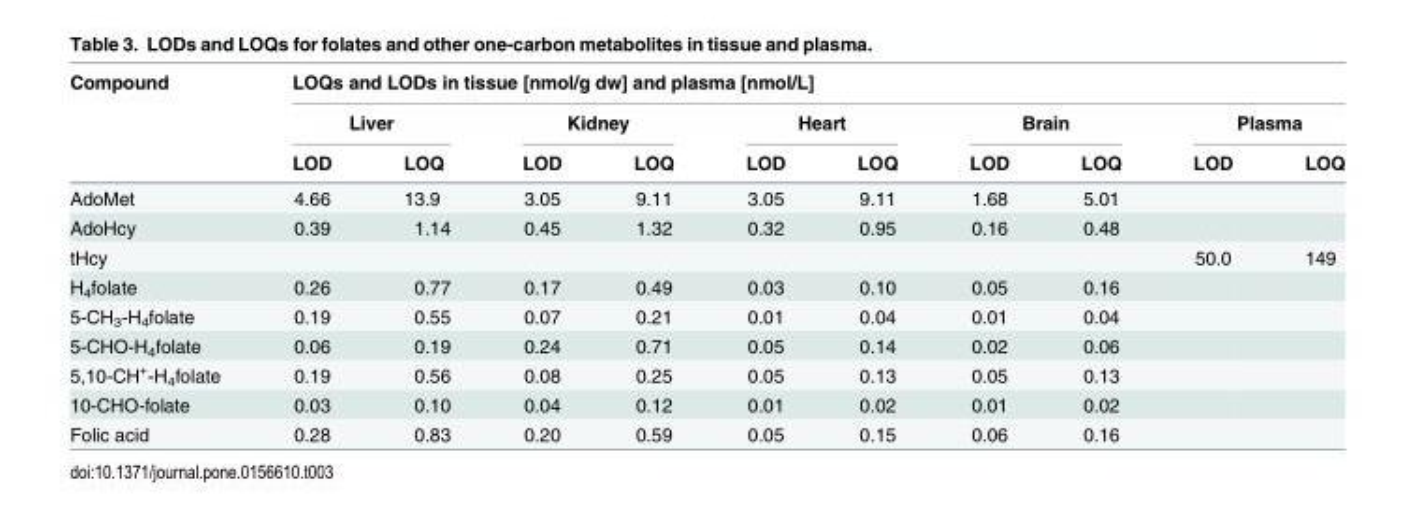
<table><thead><tr><td rowspan="3">Compound</td><td colspan="10">LOQs and LODs in tissue [nmol/g dw] and plasma [nmol/L]</td></tr><tr><td colspan="2">Liver</td><td colspan="2">Kidney</td><td colspan="2">Heart</td><td colspan="2">Brain</td><td colspan="2">Plasma</td></tr><tr><td>LOD</td><td>LOQ</td><td>LOD</td><td>LOQ</td><td>LOD</td><td>LOQ</td><td>LOD</td><td>LOQ</td><td>LOD</td><td>LOQ</td></tr></thead><tbody><tr><td>AdoMet</td><td>4.66</td><td>13.9</td><td>3.05</td><td>9.11</td><td>3.05</td><td>9.11</td><td>1.68</td><td>5.01</td><td></td><td></td></tr><tr><td>AdoHcy</td><td>0.39</td><td>1.14</td><td>0.45</td><td>1.32</td><td>0.32</td><td>0.95</td><td>0.16</td><td>0.48</td><td></td><td></td></tr><tr><td>tHcy</td><td></td><td></td><td></td><td></td><td></td><td></td><td></td><td></td><td>50.0</td><td>149</td></tr><tr><td>H<sub>4</sub>folate</td><td>0.26</td><td>0.77</td><td>0.17</td><td>0.49</td><td>0.03</td><td>0.10</td><td>0.05</td><td>0.16</td><td></td><td></td></tr><tr><td>5-CH<sub>3</sub>-H<sub>4</sub>folate</td><td>0.19</td><td>0.55</td><td>0.07</td><td>0.21</td><td>0.01</td><td>0.04</td><td>0.01</td><td>0.04</td><td></td><td></td></tr><tr><td>5-CHO-H<sub>4</sub>folate</td><td>0.06</td><td>0.19</td><td>0.24</td><td>0.71</td><td>0.05</td><td>0.14</td><td>0.02</td><td>0.06</td><td></td><td></td></tr><tr><td>5,10-CH<sup>+</sup>-H<sub>4</sub>folate</td><td>0.19</td><td>0.56</td><td>0.08</td><td>0.25</td><td>0.05</td><td>0.13</td><td>0.05</td><td>0.13</td><td></td><td></td></tr><tr><td>10-CHO-folate</td><td>0.03</td><td>0.10</td><td>0.04</td><td>0.12</td><td>0.01</td><td>0.02</td><td>0.01</td><td>0.02</td><td></td><td></td></tr><tr><td>Folic acid</td><td>0.28</td><td>0.83</td><td>0.20</td><td>0.59</td><td>0.05</td><td>0.15</td><td>0.06</td><td>0.16</td><td></td><td></td></tr></tbody></table>